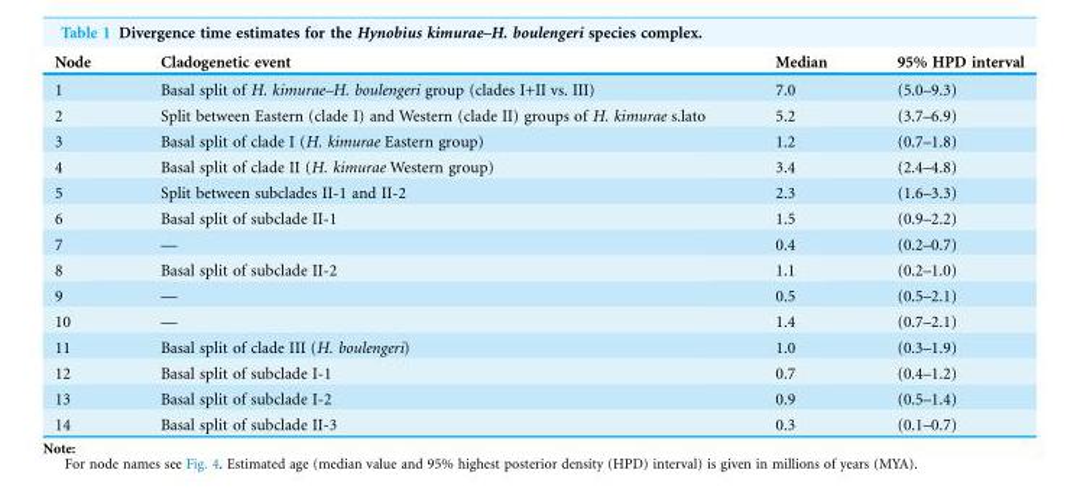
<table><thead><tr><td>Node</td><td>Cladogenetic event</td><td>Median</td><td>95% HPD interval</td></tr></thead><tbody><tr><td>1</td><td>Basal split of H. kimurae–H. boulengeri group (clades I+II vs. III)</td><td>7.0</td><td>(5.0–9.3)</td></tr><tr><td>2</td><td>Split between Eastern (clade I) and Western (clade II) groups of H. kimurae s.lato</td><td>5.2</td><td>(3.7–6.9)</td></tr><tr><td>3</td><td>Basal split of clade I (H. kimurae Eastern group)</td><td>1.2</td><td>(0.7–1.8)</td></tr><tr><td>4</td><td>Basal split of clade II (H. kimurae Western group)</td><td>3.4</td><td>(2.4–4.8)</td></tr><tr><td>5</td><td>Split between subclades II-1 and II-2</td><td>2.3</td><td>(1.6–3.3)</td></tr><tr><td>6</td><td>Basal split of subclade II-1</td><td>1.5</td><td>(0.9–2.2)</td></tr><tr><td>7</td><td>—</td><td>0.4</td><td>(0.2–0.7)</td></tr><tr><td>8</td><td>Basal split of subclade II-2</td><td>1.1</td><td>(0.2–1.0)</td></tr><tr><td>9</td><td>—</td><td>0.5</td><td>(0.5–2.1)</td></tr><tr><td>10</td><td>—</td><td>1.4</td><td>(0.7–2.1)</td></tr><tr><td>11</td><td>Basal split of clade III (H. boulengeri)</td><td>1.0</td><td>(0.3–1.9)</td></tr><tr><td>12</td><td>Basal split of subclade I-1</td><td>0.7</td><td>(0.4–1.2)</td></tr><tr><td>13</td><td>Basal split of subclade I-2</td><td>0.9</td><td>(0.5–1.4)</td></tr><tr><td>14</td><td>Basal split of subclade II-3</td><td>0.3</td><td>(0.1–0.7)</td></tr></tbody></table>